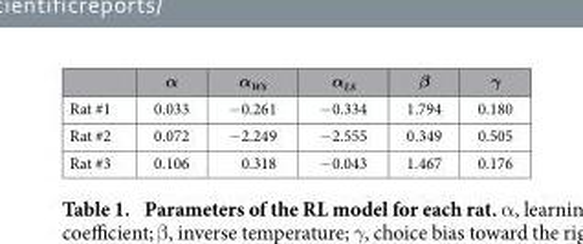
<table><thead><tr><td></td><td>α</td><td>α<sub>WS</sub></td><td>α<sub>LS</sub></td><td>β</td><td>γ</td></tr></thead><tbody><tr><td>Rat #1</td><td>0.033</td><td>− 0.261</td><td>− 0.334</td><td>1.794</td><td>0.180</td></tr><tr><td>Rat #2</td><td>0.072</td><td>− 2.249</td><td>− 2.555</td><td>0.349</td><td>0.505</td></tr><tr><td>Rat #3</td><td>0.106</td><td>0.318</td><td>− 0.043</td><td>1.467</td><td>0.176</td></tr></tbody></table>